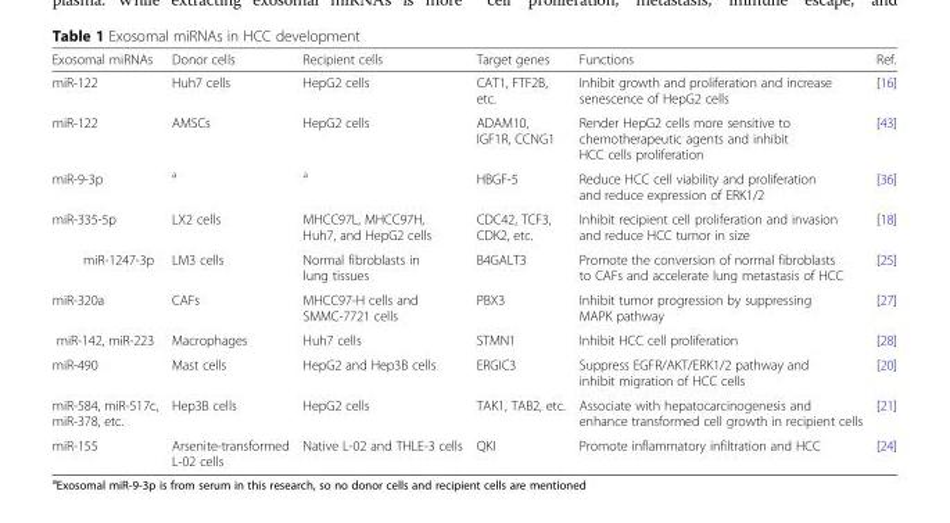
<table><thead><tr><td>Exosomal miRNAs</td><td>Donor cells</td><td>Recipient cells</td><td>Target genes</td><td>Functions</td><td>Ref.</td></tr></thead><tbody><tr><td>miR-122</td><td>Huh7 cells</td><td>HepG2 cells</td><td>CAT1, FTF2B, etc.</td><td>Inhibit growth and proliferation and increase senescence of HepG2 cells</td><td>[16]</td></tr><tr><td>miR-122</td><td>AMSCs</td><td>HepG2 cells</td><td>ADAM10, IGF1R, CCNG1</td><td>Render HepG2 cells more sensitive to chemotherapeutic agents and inhibit HCC cells proliferation</td><td>[43]</td></tr><tr><td>miR-9-3p</td><td><sup>a</sup></td><td><sup>a</sup></td><td>HBGF-5</td><td>Reduce HCC cell viability and proliferation and reduce expression of ERK1/2</td><td>[36]</td></tr><tr><td>miR-335-5p</td><td>LX2 cells</td><td>MHCC97L, MHCC97H, Huh7, and HepG2 cells</td><td>CDC42, TCF3, CDK2, etc.</td><td>Inhibit recipient cell proliferation and invasion and reduce HCC tumor in size</td><td>[18]</td></tr><tr><td>miR-1247-3p</td><td>LM3 cells</td><td>Normal fibroblasts in lung tissues</td><td>B4GALT3</td><td>Promote the conversion of normal fibroblasts to CAFs and accelerate lung metastasis of HCC</td><td>[25]</td></tr><tr><td>miR-320a</td><td>CAFs</td><td>MHCC97-H cells and SMMC-7721 cells</td><td>PBX3</td><td>Inhibit tumor progression by suppressing MAPK pathway</td><td>[27]</td></tr><tr><td>miR-142, miR-223</td><td>Macrophages</td><td>Huh7 cells</td><td>STMN1</td><td>Inhibit HCC cell proliferation</td><td>[28]</td></tr><tr><td>miR-490</td><td>Mast cells</td><td>HepG2 and Hep3B cells</td><td>ERGIC3</td><td>Suppress EGFR/AKT/ERK1/2 pathway and inhibit migration of HCC cells</td><td>[20]</td></tr><tr><td>miR-584, miR-517c, miR-378, etc.</td><td>Hep3B cells</td><td>HepG2 cells</td><td>TAK1, TAB2, etc.</td><td>Associate with hepatocarcinogenesis and enhance transformed cell growth in recipient cells</td><td>[21]</td></tr><tr><td>miR-155</td><td>Arsenite-transformed L-02 cells</td><td>Native L-02 and THLE-3 cells</td><td>QKI</td><td>Promote inflammatory infiltration and HCC</td><td>[24]</td></tr></tbody></table>